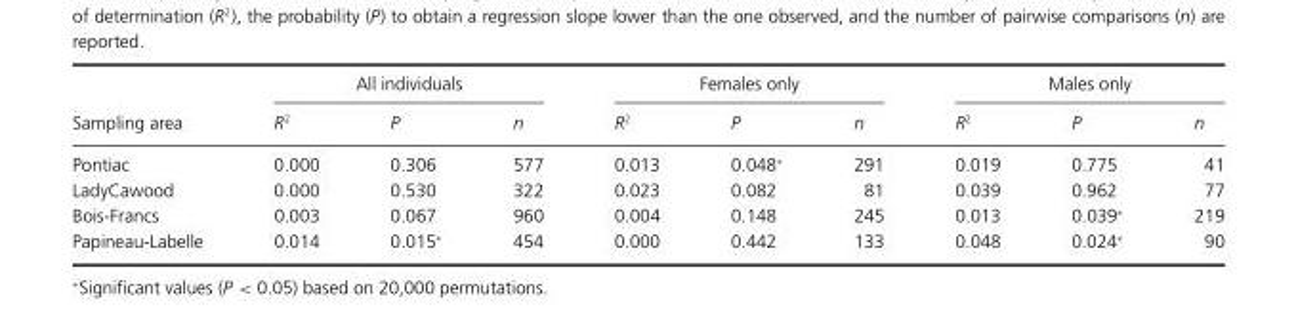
<table><thead><tr><td rowspan="2">Sampling area</td><td colspan="3">All individuals</td><td colspan="3">Females only</td><td colspan="3">Males only</td></tr><tr><td>R<sup>2</sup></td><td>P</td><td>n</td><td>R<sup>2</sup></td><td>P</td><td>n</td><td>R<sup>2</sup></td><td>P</td><td>n</td></tr></thead><tbody><tr><td>Pontiac</td><td>0.000</td><td>0.306</td><td>577</td><td>0.013</td><td>0.048∗</td><td>291</td><td>0.019</td><td>0.775</td><td>41</td></tr><tr><td>LadyCawood</td><td>0.000</td><td>0.530</td><td>322</td><td>0.023</td><td>0.082</td><td>81</td><td>0.039</td><td>0.962</td><td>77</td></tr><tr><td>Bois-Francs</td><td>0.003</td><td>0.067</td><td>960</td><td>0.004</td><td>0.148</td><td>245</td><td>0.013</td><td>0.039∗</td><td>219</td></tr><tr><td>Papineau-Labelle</td><td>0.014</td><td>0.015∗</td><td>454</td><td>0.000</td><td>0.442</td><td>133</td><td>0.048</td><td>0.024∗</td><td>90</td></tr></tbody></table>